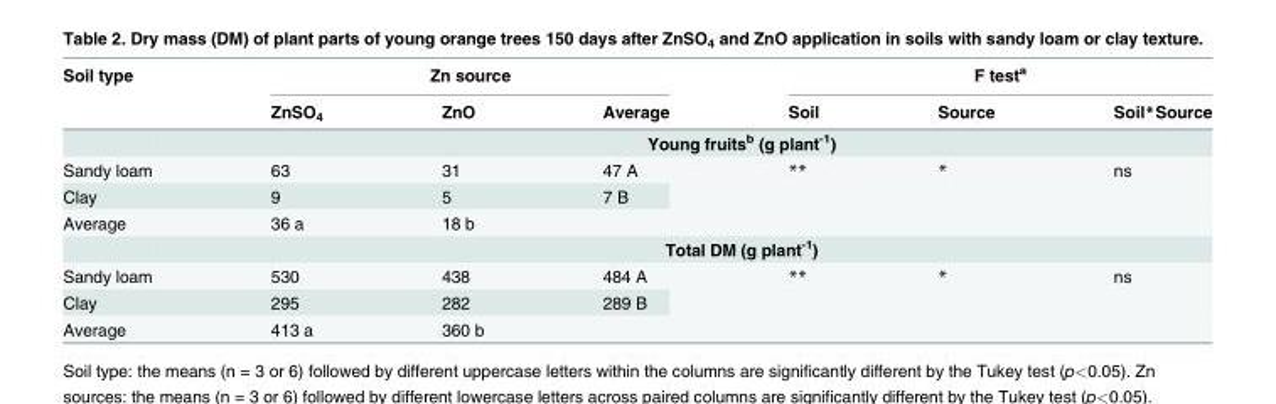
<table><thead><tr><td rowspan="2">Soil type</td><td colspan="3">Zn source</td><td colspan="3">F test<sup>a</sup></td></tr><tr><td>ZnSO<sub>4</sub></td><td>ZnO</td><td>Average</td><td>Soil</td><td>Source</td><td>Soil*Source</td></tr></thead><tbody><tr><td></td><td colspan="6">Young fruits<sup>b</sup> (g plant<sup>-1</sup>)</td></tr><tr><td>Sandy loam</td><td>63</td><td>31</td><td>47 A</td><td rowspan="2">**</td><td rowspan="2">*</td><td rowspan="2">ns</td></tr><tr><td>Clay</td><td>9</td><td>5</td><td>7 B</td></tr><tr><td rowspan="2">Average</td><td>36 a</td><td>18 b</td><td></td><td></td><td></td><td></td></tr><tr><td colspan="6">Total DM (g plant<sup>-1</sup>)</td></tr><tr><td>Sandy loam</td><td>530</td><td>438</td><td>484 A</td><td rowspan="2">**</td><td rowspan="2">*</td><td rowspan="2">ns</td></tr><tr><td>Clay</td><td>295</td><td>282</td><td>289 B</td></tr><tr><td>Average</td><td>413 a</td><td>360 b</td><td></td><td></td><td></td><td></td></tr></tbody></table>